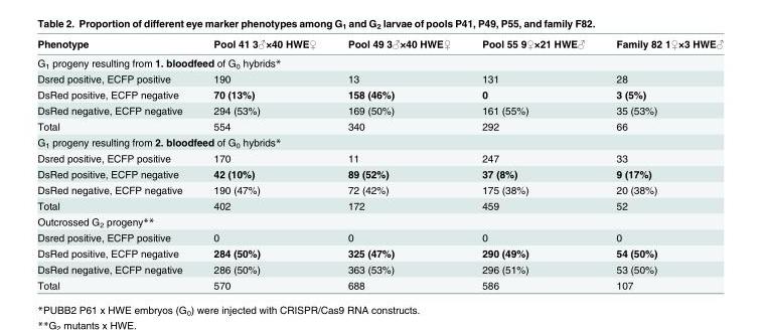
<table><thead><tr><td>Phenotype</td><td>Pool 41 3♂×40 HWE♀</td><td>Pool 49 3♂×40 HWE♀</td><td>Pool 55 9♀×21 HWE♂</td><td>Family 82 1♀×3 HWE♂</td></tr></thead><tbody><tr><td colspan="5">G<sub>1</sub> progeny resulting from 1. bloodfeed of G<sub>0</sub> hybrids*</td></tr><tr><td>Dsred positive, ECFP positive</td><td>190</td><td>13</td><td>131</td><td>28</td></tr><tr><td>DsRed positive, ECFP negative</td><td>70 (13%)</td><td>158 (46%)</td><td>0</td><td>3 (5%)</td></tr><tr><td>DsRed negative, ECFP negative</td><td>294 (53%)</td><td>169 (50%)</td><td>161 (55%)</td><td>35 (53%)</td></tr><tr><td>Total</td><td>554</td><td>340</td><td>292</td><td>66</td></tr><tr><td colspan="5">G<sub>1</sub> progeny resulting from 2. bloodfeed of G<sub>0</sub> hybrids*</td></tr><tr><td>Dsred positive, ECFP positive</td><td>170</td><td>11</td><td>247</td><td>33</td></tr><tr><td>DsRed positive, ECFP negative</td><td>42 (10%)</td><td>89 (52%)</td><td>37 (8%)</td><td>9 (17%)</td></tr><tr><td>DsRed negative, ECFP negative</td><td>190 (47%)</td><td>72 (42%)</td><td>175 (38%)</td><td>20 (38%)</td></tr><tr><td>Total</td><td>402</td><td>172</td><td>459</td><td>52</td></tr><tr><td colspan="5">Outcrossed G<sub>2</sub> progeny**</td></tr><tr><td>Dsred positive, ECFP positive</td><td>0</td><td>0</td><td>0</td><td>0</td></tr><tr><td>DsRed positive, ECFP negative</td><td>284 (50%)</td><td>325 (47%)</td><td>290 (49%)</td><td>54 (50%)</td></tr><tr><td>DsRed negative, ECFP negative</td><td>286 (50%)</td><td>363 (53%)</td><td>296 (51%)</td><td>53 (50%)</td></tr><tr><td>Total</td><td>570</td><td>688</td><td>586</td><td>107</td></tr></tbody></table>